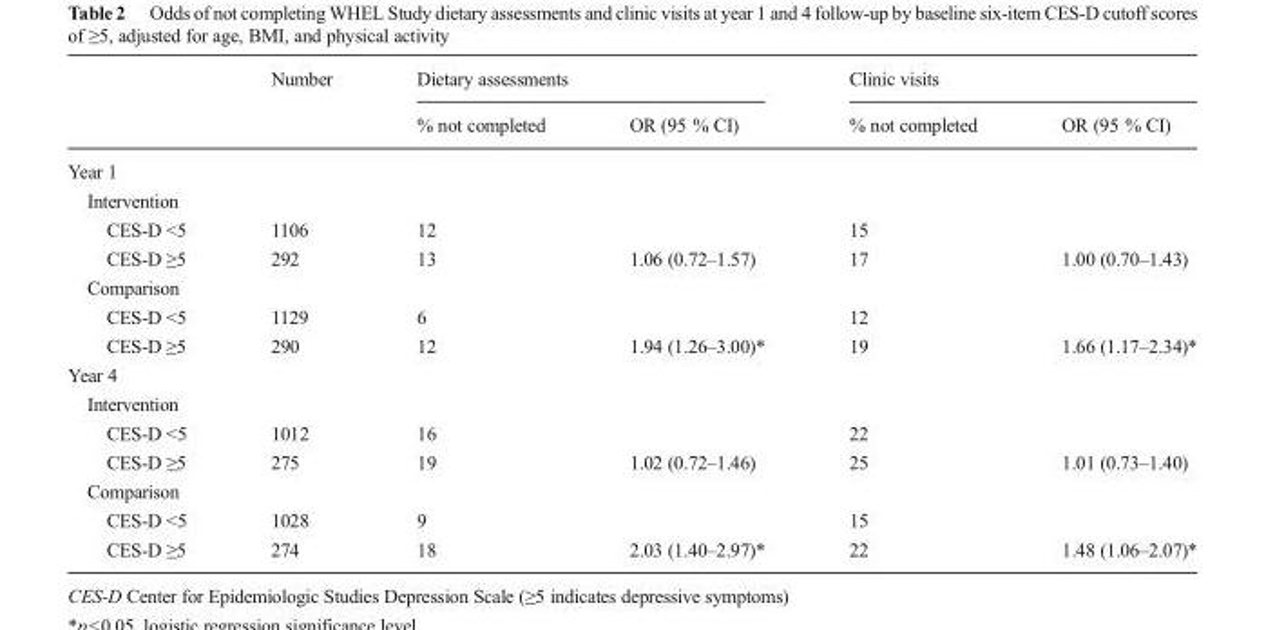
<table><thead><tr><td rowspan="2"></td><td rowspan="2">Number</td><td colspan="2">Dietary assessments</td><td colspan="2">Clinic visits</td></tr><tr><td>% not completed</td><td>OR (95 % CI)</td><td>% not completed</td><td>OR (95 % CI)</td></tr></thead><tbody><tr><td colspan="6">Year 1</td></tr><tr><td colspan="6">Intervention</td></tr><tr><td>CES-D &lt;5</td><td>1106</td><td>12</td><td></td><td>15</td><td></td></tr><tr><td>CES-D ≥5</td><td>292</td><td>13</td><td>1.06 (0.72–1.57)</td><td>17</td><td>1.00 (0.70–1.43)</td></tr><tr><td colspan="6">Comparison</td></tr><tr><td>CES-D &lt;5</td><td>1129</td><td>6</td><td></td><td>12</td><td></td></tr><tr><td>CES-D ≥5</td><td>290</td><td>12</td><td>1.94 (1.26–3.00)*</td><td>19</td><td>1.66 (1.17–2.34)*</td></tr><tr><td colspan="6">Year 4</td></tr><tr><td colspan="6">Intervention</td></tr><tr><td>CES-D &lt;5</td><td>1012</td><td>16</td><td></td><td>22</td><td></td></tr><tr><td>CES-D ≥5</td><td>275</td><td>19</td><td>1.02 (0.72–1.46)</td><td>25</td><td>1.01 (0.73–1.40)</td></tr><tr><td colspan="6">Comparison</td></tr><tr><td>CES-D &lt;5</td><td>1028</td><td>9</td><td></td><td>15</td><td></td></tr><tr><td>CES-D ≥5</td><td>274</td><td>18</td><td>2.03 (1.40–2.97)*</td><td>22</td><td>1.48 (1.06–2.07)*</td></tr></tbody></table>